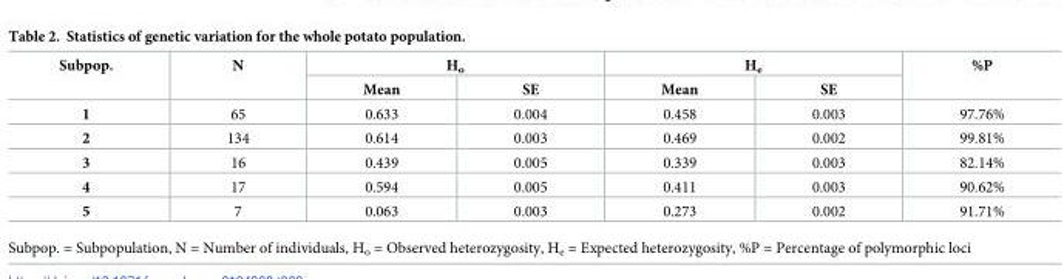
<table><thead><tr><td rowspan="2">Subpop.</td><td rowspan="2">N</td><td colspan="2">H<sub>o</sub></td><td colspan="2">H<sub>e</sub></td><td rowspan="2">%P</td></tr><tr><td>Mean</td><td>SE</td><td>Mean</td><td>SE</td></tr></thead><tbody><tr><td>1</td><td>65</td><td>0.633</td><td>0.004</td><td>0.458</td><td>0.003</td><td>97.76%</td></tr><tr><td>2</td><td>134</td><td>0.614</td><td>0.003</td><td>0.469</td><td>0.002</td><td>99.81%</td></tr><tr><td>3</td><td>16</td><td>0.439</td><td>0.005</td><td>0.339</td><td>0.003</td><td>82.14%</td></tr><tr><td>4</td><td>17</td><td>0.594</td><td>0.005</td><td>0.411</td><td>0.003</td><td>90.62%</td></tr><tr><td>5</td><td>7</td><td>0.063</td><td>0.003</td><td>0.273</td><td>0.002</td><td>91.71%</td></tr></tbody></table>